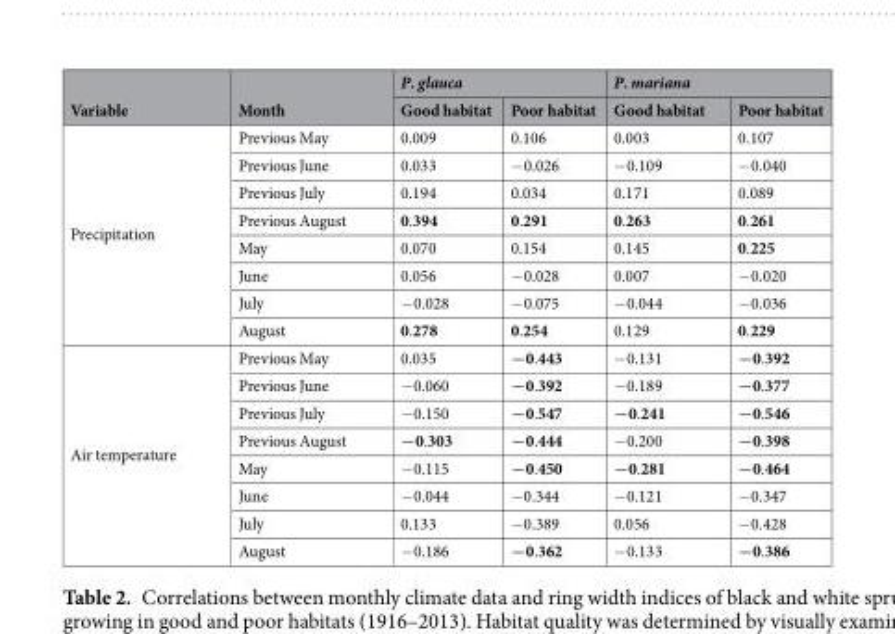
<table><thead><tr><td rowspan="2">Variable</td><td rowspan="2">Month</td><td colspan="2">P. glauca</td><td colspan="2">P. mariana</td></tr><tr><td>Good habitat</td><td>Poor habitat</td><td>Good habitat</td><td>Poor habitat</td></tr></thead><tbody><tr><td rowspan="8">Precipitation</td><td>Previous May</td><td>0.009</td><td>0.106</td><td>0.003</td><td>0.107</td></tr><tr><td>Previous June</td><td>0.033</td><td>−0.026</td><td>−0.109</td><td>−0.040</td></tr><tr><td>Previous July</td><td>0.194</td><td>0.034</td><td>0.171</td><td>0.089</td></tr><tr><td>Previous August</td><td>0.394</td><td>0.291</td><td>0.263</td><td>0.261</td></tr><tr><td>May</td><td>0.070</td><td>0.154</td><td>0.145</td><td>0.225</td></tr><tr><td>June</td><td>0.056</td><td>−0.028</td><td>0.007</td><td>−0.020</td></tr><tr><td>July</td><td>−0.028</td><td>−0.075</td><td>−0.044</td><td>−0.036</td></tr><tr><td>August</td><td>0.278</td><td>0.254</td><td>0.129</td><td>0.229</td></tr><tr><td rowspan="8">Air temperature</td><td>Previous May</td><td>0.035</td><td>−0.443</td><td>−0.131</td><td>−0.392</td></tr><tr><td>Previous June</td><td>−0.060</td><td>−0.392</td><td>−0.189</td><td>−0.377</td></tr><tr><td>Previous July</td><td>−0.150</td><td>−0.547</td><td>−0.241</td><td>−0.546</td></tr><tr><td>Previous August</td><td>−0.303</td><td>−0.444</td><td>−0.200</td><td>−0.398</td></tr><tr><td>May</td><td>−0.115</td><td>−0.450</td><td>−0.281</td><td>−0.464</td></tr><tr><td>June</td><td>−0.044</td><td>−0.344</td><td>−0.121</td><td>−0.347</td></tr><tr><td>July</td><td>0.133</td><td>−0.389</td><td>0.056</td><td>−0.428</td></tr><tr><td>August</td><td>−0.186</td><td>−0.362</td><td>−0.133</td><td>−0.386</td></tr></tbody></table>